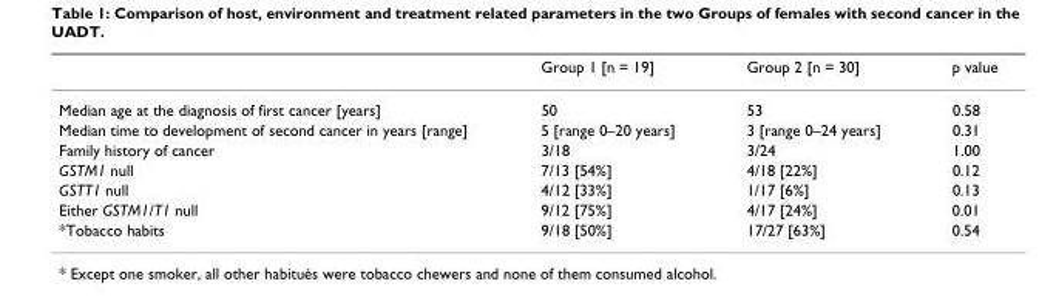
<table><thead><tr><td></td><td>Group 1 [n = 19]</td><td>Group 2 [n = 30]</td><td>p value</td></tr></thead><tbody><tr><td>Median age at the diagnosis of first cancer [years]</td><td>50</td><td>53</td><td>0.58</td></tr><tr><td>Median time to development of second cancer in years [range]</td><td>5 [range 0–20 years]</td><td>3 [range 0–24 years]</td><td>0.31</td></tr><tr><td>Family history of cancer</td><td>3/18</td><td>3/24</td><td>1.00</td></tr><tr><td>GSTM1 null</td><td>7/13 [54%]</td><td>4/18 [22%]</td><td>0.12</td></tr><tr><td>GSTT1 null</td><td>4/12 [33%]</td><td>1/17 [6%]</td><td>0.13</td></tr><tr><td>Either GSTM1/T1 null</td><td>9/12 [75%]</td><td>4/17 [24%]</td><td>0.01</td></tr><tr><td>*Tobacco habits</td><td>9/18 [50%]</td><td>17/27 [63%]</td><td>0.54</td></tr></tbody></table>